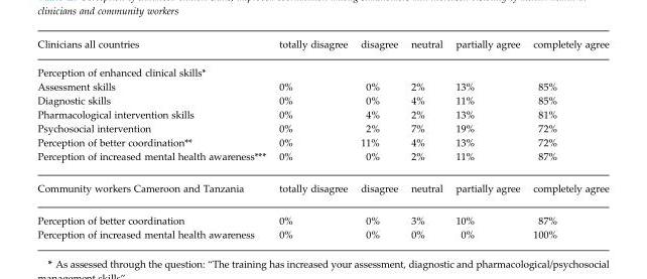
<table><thead><tr><td>Clinicians all countries</td><td>totally disagree</td><td>disagree</td><td>neutral</td><td>partially agree</td><td>completely agree</td></tr></thead><tbody><tr><td colspan="6">Perception of enhanced clinical skills*</td></tr><tr><td>Assessment skills</td><td>0%</td><td>0%</td><td>2%</td><td>13%</td><td>85%</td></tr><tr><td>Diagnostic skills</td><td>0%</td><td>0%</td><td>4%</td><td>11%</td><td>85%</td></tr><tr><td>Pharmacological intervention skills</td><td>0%</td><td>4%</td><td>2%</td><td>13%</td><td>81%</td></tr><tr><td>Psychosocial intervention</td><td>0%</td><td>2%</td><td>7%</td><td>19%</td><td>72%</td></tr><tr><td>Perception of better coordination**</td><td>0%</td><td>11%</td><td>4%</td><td>13%</td><td>72%</td></tr><tr><td>Perception of increased mental health awareness***</td><td>0%</td><td>0%</td><td>2%</td><td>11%</td><td>87%</td></tr><tr><td>Community workers Cameroon and Tanzania</td><td>totally disagree</td><td>disagree</td><td>neutral</td><td>partially agree</td><td>completely agree</td></tr><tr><td>Perception of better coordination</td><td>0%</td><td>0%</td><td>3%</td><td>10%</td><td>87%</td></tr><tr><td>Perception of increased mental health awareness</td><td>0%</td><td>0%</td><td>0%</td><td>0%</td><td>100%</td></tr></tbody></table>